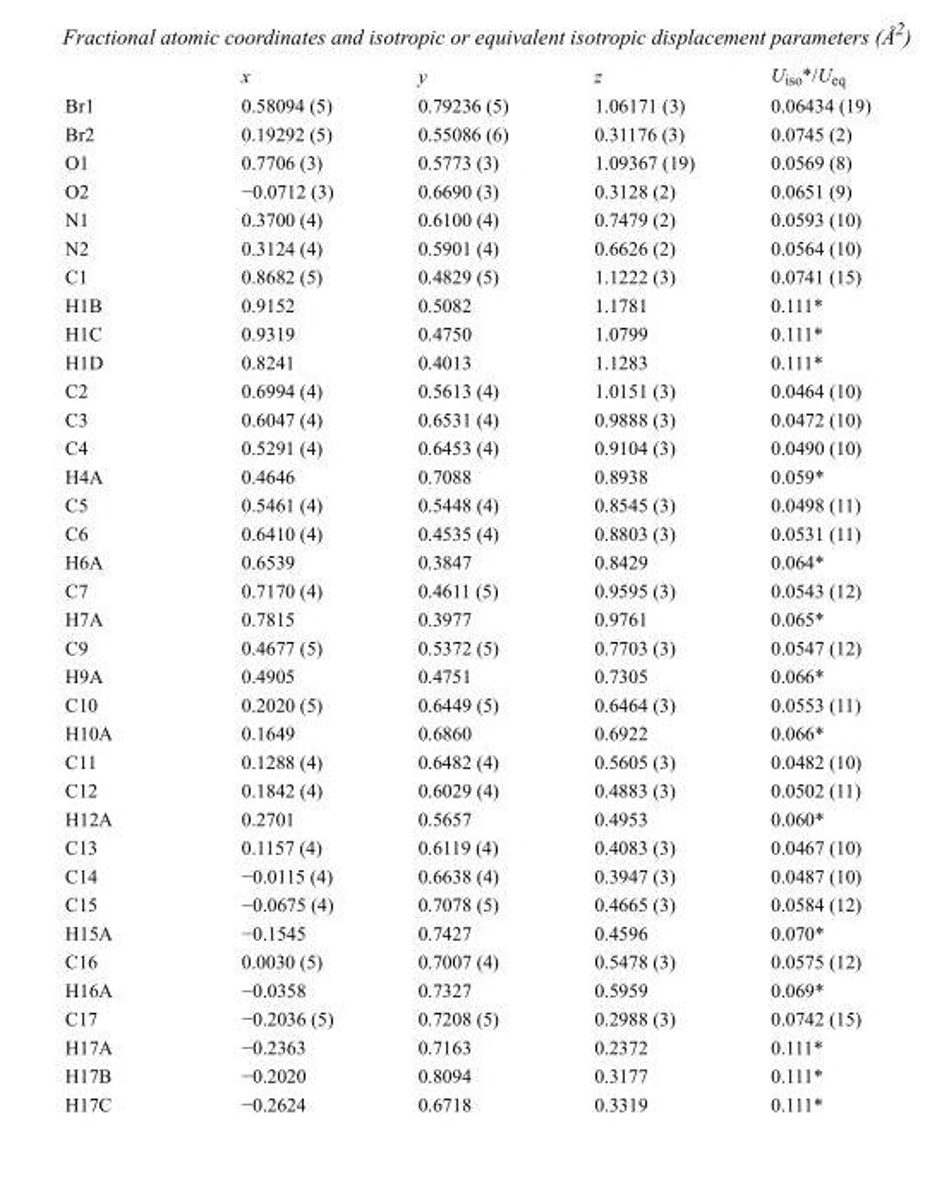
<table><thead><tr><td></td><td>x</td><td>y</td><td>z</td><td>U<sub>iso</sub>*/U<sub>eq</sub></td></tr></thead><tbody><tr><td>Br1</td><td>0.58094 (5)</td><td>0.79236 (5)</td><td>1.06171 (3)</td><td>0.06434 (19)</td></tr><tr><td>Br2</td><td>0.19292 (5)</td><td>0.55086 (6)</td><td>0.31176 (3)</td><td>0.0745 (2)</td></tr><tr><td>O1</td><td>0.7706 (3)</td><td>0.5773 (3)</td><td>1.09367 (19)</td><td>0.0569 (8)</td></tr><tr><td>O2</td><td>−0.0712 (3)</td><td>0.6690 (3)</td><td>0.3128 (2)</td><td>0.0651 (9)</td></tr><tr><td>N1</td><td>0.3700 (4)</td><td>0.6100 (4)</td><td>0.7479 (2)</td><td>0.0593 (10)</td></tr><tr><td>N2</td><td>0.3124 (4)</td><td>0.5901 (4)</td><td>0.6626 (2)</td><td>0.0564 (10)</td></tr><tr><td>C1</td><td>0.8682 (5)</td><td>0.4829 (5)</td><td>1.1222 (3)</td><td>0.0741 (15)</td></tr><tr><td>H1B</td><td>0.9152</td><td>0.5082</td><td>1.1781</td><td>0.111*</td></tr><tr><td>H1C</td><td>0.9319</td><td>0.4750</td><td>1.0799</td><td>0.111*</td></tr><tr><td>H1D</td><td>0.8241</td><td>0.4013</td><td>1.1283</td><td>0.111*</td></tr><tr><td>C2</td><td>0.6994 (4)</td><td>0.5613 (4)</td><td>1.0151 (3)</td><td>0.0464 (10)</td></tr><tr><td>C3</td><td>0.6047 (4)</td><td>0.6531 (4)</td><td>0.9888 (3)</td><td>0.0472 (10)</td></tr><tr><td>C4</td><td>0.5291 (4)</td><td>0.6453 (4)</td><td>0.9104 (3)</td><td>0.0490 (10)</td></tr><tr><td>H4A</td><td>0.4646</td><td>0.7088</td><td>0.8938</td><td>0.059*</td></tr><tr><td>C5</td><td>0.5461 (4)</td><td>0.5448 (4)</td><td>0.8545 (3)</td><td>0.0498 (11)</td></tr><tr><td>C6</td><td>0.6410 (4)</td><td>0.4535 (4)</td><td>0.8803 (3)</td><td>0.0531 (11)</td></tr><tr><td>H6A</td><td>0.6539</td><td>0.3847</td><td>0.8429</td><td>0.064*</td></tr><tr><td>C7</td><td>0.7170 (4)</td><td>0.4611 (5)</td><td>0.9595 (3)</td><td>0.0543 (12)</td></tr><tr><td>H7A</td><td>0.7815</td><td>0.3977</td><td>0.9761</td><td>0.065*</td></tr><tr><td>C9</td><td>0.4677 (5)</td><td>0.5372 (5)</td><td>0.7703 (3)</td><td>0.0547 (12)</td></tr><tr><td>H9A</td><td>0.4905</td><td>0.4751</td><td>0.7305</td><td>0.066*</td></tr><tr><td>C10</td><td>0.2020 (5)</td><td>0.6449 (5)</td><td>0.6464 (3)</td><td>0.0553 (11)</td></tr><tr><td>H10A</td><td>0.1649</td><td>0.6860</td><td>0.6922</td><td>0.066*</td></tr><tr><td>C11</td><td>0.1288 (4)</td><td>0.6482 (4)</td><td>0.5605 (3)</td><td>0.0482 (10)</td></tr><tr><td>C12</td><td>0.1842 (4)</td><td>0.6029 (4)</td><td>0.4883 (3)</td><td>0.0502 (11)</td></tr><tr><td>H12A</td><td>0.2701</td><td>0.5657</td><td>0.4953</td><td>0.060*</td></tr><tr><td>C13</td><td>0.1157 (4)</td><td>0.6119 (4)</td><td>0.4083 (3)</td><td>0.0467 (10)</td></tr><tr><td>C14</td><td>−0.0115 (4)</td><td>0.6638 (4)</td><td>0.3947 (3)</td><td>0.0487 (10)</td></tr><tr><td>C15</td><td>−0.0675 (4)</td><td>0.7078 (5)</td><td>0.4665 (3)</td><td>0.0584 (12)</td></tr><tr><td>H15A</td><td>−0.1545</td><td>0.7427</td><td>0.4596</td><td>0.070*</td></tr><tr><td>C16</td><td>0.0030 (5)</td><td>0.7007 (4)</td><td>0.5478 (3)</td><td>0.0575 (12)</td></tr><tr><td>H16A</td><td>−0.0358</td><td>0.7327</td><td>0.5959</td><td>0.069*</td></tr><tr><td>C17</td><td>−0.2036 (5)</td><td>0.7208 (5)</td><td>0.2988 (3)</td><td>0.0742 (15)</td></tr><tr><td>H17A</td><td>−0.2363</td><td>0.7163</td><td>0.2372</td><td>0.111*</td></tr><tr><td>H17B</td><td>−0.2020</td><td>0.8094</td><td>0.3177</td><td>0.111*</td></tr><tr><td>H17C</td><td>−0.2624</td><td>0.6718</td><td>0.3319</td><td>0.111*</td></tr></tbody></table>